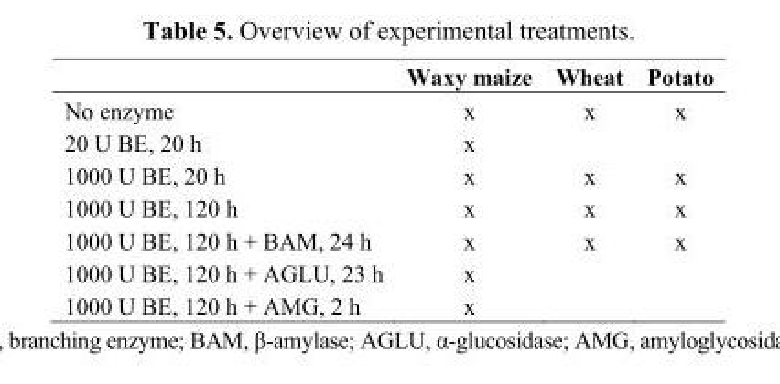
<table><thead><tr><td></td><td>Waxy maize</td><td>Wheat</td><td>Potato</td></tr></thead><tbody><tr><td>No enzyme</td><td>x</td><td>x</td><td>x</td></tr><tr><td>20 U BE, 20 h</td><td>x</td><td></td><td></td></tr><tr><td>1000 U BE, 20 h</td><td>x</td><td>x</td><td>x</td></tr><tr><td>1000 U BE, 120 h</td><td>x</td><td>x</td><td>x</td></tr><tr><td>1000 U BE, 120 h + BAM, 24 h</td><td>x</td><td>x</td><td>x</td></tr><tr><td>1000 U BE, 120 h + AGLU, 23 h</td><td>x</td><td></td><td></td></tr><tr><td>1000 U BE, 120 h + AMG, 2 h</td><td>x</td><td></td><td></td></tr></tbody></table>